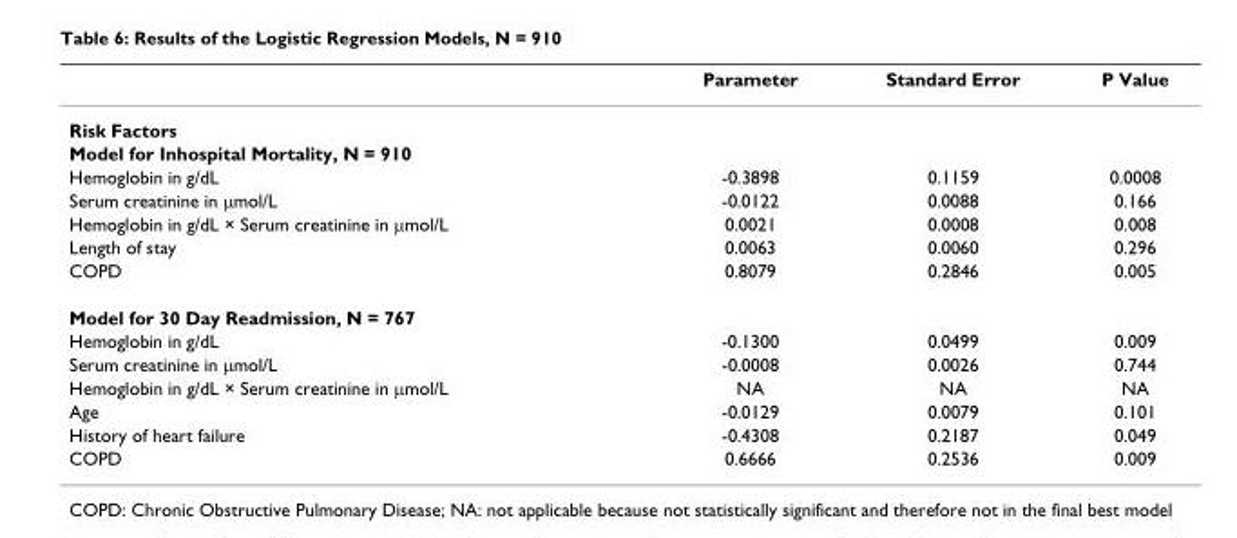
<table><thead><tr><td></td><td>Parameter</td><td>Standard Error</td><td>P Value</td></tr></thead><tbody><tr><td colspan="4">Risk Factors</td></tr><tr><td colspan="4">Model for Inhospital Mortality, N = 910</td></tr><tr><td>Hemoglobin in g/dL</td><td>-0.3898</td><td>0.1159</td><td>0.0008</td></tr><tr><td>Serum creatinine in µmol/L</td><td>-0.0122</td><td>0.0088</td><td>0.166</td></tr><tr><td>Hemoglobin in g/dL × Serum creatinine in µmol/L</td><td>0.0021</td><td>0.0008</td><td>0.008</td></tr><tr><td>Length of stay</td><td>0.0063</td><td>0.0060</td><td>0.296</td></tr><tr><td>COPD</td><td>0.8079</td><td>0.2846</td><td>0.005</td></tr><tr><td colspan="4">Model for 30 Day Readmission, N = 767</td></tr><tr><td>Hemoglobin in g/dL</td><td>-0.1300</td><td>0.0499</td><td>0.009</td></tr><tr><td>Serum creatinine in µmol/L</td><td>-0.0008</td><td>0.0026</td><td>0.744</td></tr><tr><td>Hemoglobin in g/dL × Serum creatinine in µmol/L</td><td>NA</td><td>NA</td><td>NA</td></tr><tr><td>Age</td><td>-0.0129</td><td>0.0079</td><td>0.101</td></tr><tr><td>History of heart failure</td><td>-0.4308</td><td>0.2187</td><td>0.049</td></tr><tr><td>COPD</td><td>0.6666</td><td>0.2536</td><td>0.009</td></tr></tbody></table>